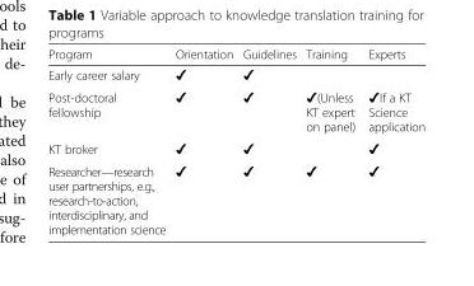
<table><thead><tr><td>Program</td><td>Orientation</td><td>Guidelines</td><td>Training</td><td>Experts</td></tr></thead><tbody><tr><td>Early career salary</td><td>✔</td><td>✔</td><td></td><td></td></tr><tr><td>Post-doctoral fellowship</td><td>✔</td><td>✔</td><td>✔(Unless KT expert on panel)</td><td>✔If a KT Science application</td></tr><tr><td>KT broker</td><td>✔</td><td>✔</td><td></td><td>✔</td></tr><tr><td>Researcher—research user partnerships, e.g., research-to-action, interdisciplinary, and implementation science</td><td>✔</td><td>✔</td><td>✔</td><td>✔</td></tr></tbody></table>